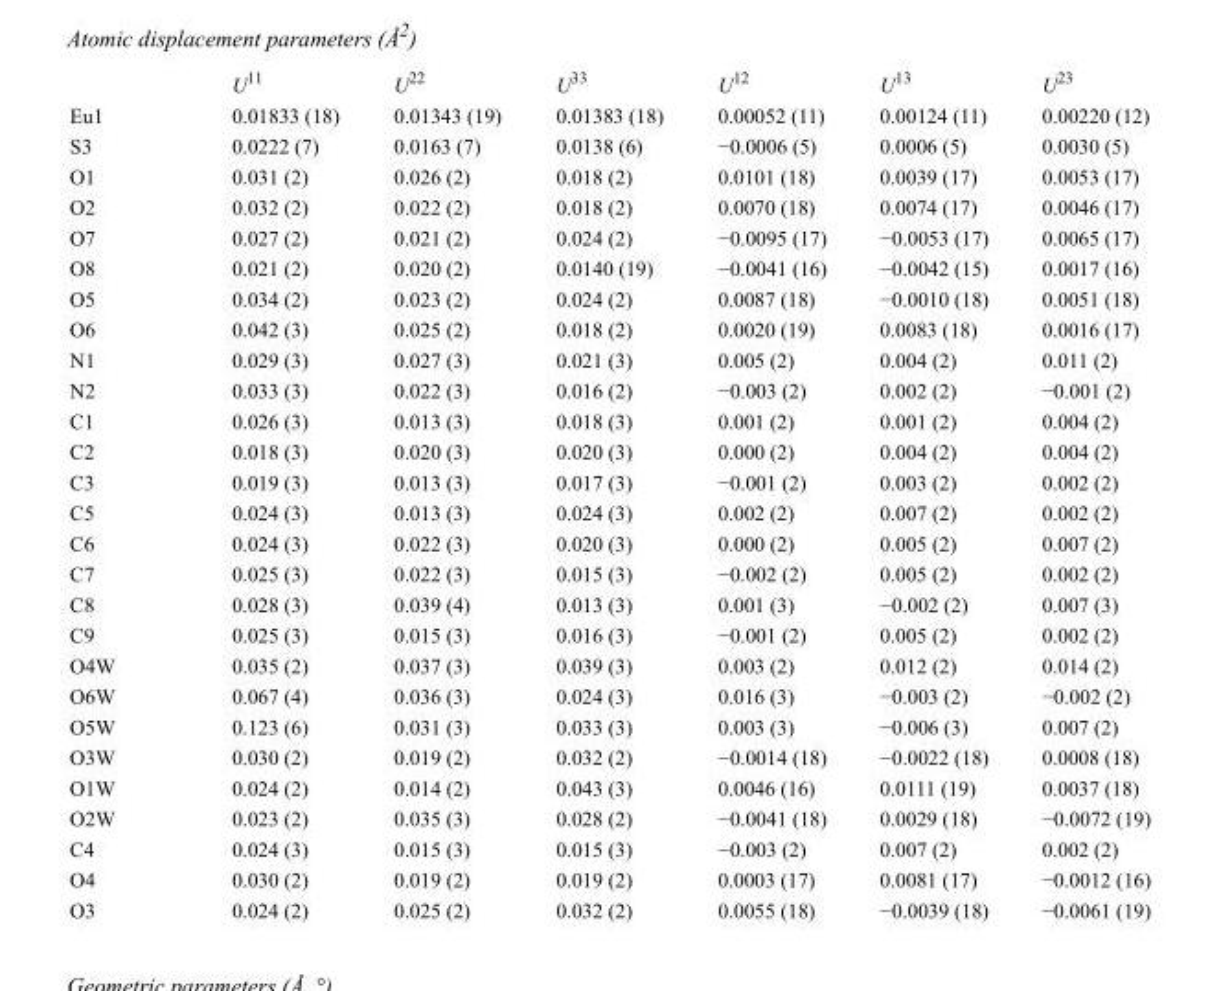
<table><thead><tr><td></td><td>U<sup>11</sup></td><td>U<sup>22</sup></td><td>U<sup>33</sup></td><td>U<sup>12</sup></td><td>U<sup>13</sup></td><td>U<sup>23</sup></td></tr></thead><tbody><tr><td>Eu1</td><td>0.01833 (18)</td><td>0.01343 (19)</td><td>0.01383 (18)</td><td>0.00052 (11)</td><td>0.00124 (11)</td><td>0.00220 (12)</td></tr><tr><td>S3</td><td>0.0222 (7)</td><td>0.0163 (7)</td><td>0.0138 (6)</td><td>−0.0006 (5)</td><td>0.0006 (5)</td><td>0.0030 (5)</td></tr><tr><td>O1</td><td>0.031 (2)</td><td>0.026 (2)</td><td>0.018 (2)</td><td>0.0101 (18)</td><td>0.0039 (17)</td><td>0.0053 (17)</td></tr><tr><td>O2</td><td>0.032 (2)</td><td>0.022 (2)</td><td>0.018 (2)</td><td>0.0070 (18)</td><td>0.0074 (17)</td><td>0.0046 (17)</td></tr><tr><td>O7</td><td>0.027 (2)</td><td>0.021 (2)</td><td>0.024 (2)</td><td>−0.0095 (17)</td><td>−0.0053 (17)</td><td>0.0065 (17)</td></tr><tr><td>O8</td><td>0.021 (2)</td><td>0.020 (2)</td><td>0.0140 (19)</td><td>−0.0041 (16)</td><td>−0.0042 (15)</td><td>0.0017 (16)</td></tr><tr><td>O5</td><td>0.034 (2)</td><td>0.023 (2)</td><td>0.024 (2)</td><td>0.0087 (18)</td><td>−0.0010 (18)</td><td>0.0051 (18)</td></tr><tr><td>O6</td><td>0.042 (3)</td><td>0.025 (2)</td><td>0.018 (2)</td><td>0.0020 (19)</td><td>0.0083 (18)</td><td>0.0016 (17)</td></tr><tr><td>N1</td><td>0.029 (3)</td><td>0.027 (3)</td><td>0.021 (3)</td><td>0.005 (2)</td><td>0.004 (2)</td><td>0.011 (2)</td></tr><tr><td>N2</td><td>0.033 (3)</td><td>0.022 (3)</td><td>0.016 (2)</td><td>−0.003 (2)</td><td>0.002 (2)</td><td>−0.001 (2)</td></tr><tr><td>C1</td><td>0.026 (3)</td><td>0.013 (3)</td><td>0.018 (3)</td><td>0.001 (2)</td><td>0.001 (2)</td><td>0.004 (2)</td></tr><tr><td>C2</td><td>0.018 (3)</td><td>0.020 (3)</td><td>0.020 (3)</td><td>0.000 (2)</td><td>0.004 (2)</td><td>0.004 (2)</td></tr><tr><td>C3</td><td>0.019 (3)</td><td>0.013 (3)</td><td>0.017 (3)</td><td>−0.001 (2)</td><td>0.003 (2)</td><td>0.002 (2)</td></tr><tr><td>C5</td><td>0.024 (3)</td><td>0.013 (3)</td><td>0.024 (3)</td><td>0.002 (2)</td><td>0.007 (2)</td><td>0.002 (2)</td></tr><tr><td>C6</td><td>0.024 (3)</td><td>0.022 (3)</td><td>0.020 (3)</td><td>0.000 (2)</td><td>0.005 (2)</td><td>0.007 (2)</td></tr><tr><td>C7</td><td>0.025 (3)</td><td>0.022 (3)</td><td>0.015 (3)</td><td>−0.002 (2)</td><td>0.005 (2)</td><td>0.002 (2)</td></tr><tr><td>C8</td><td>0.028 (3)</td><td>0.039 (4)</td><td>0.013 (3)</td><td>0.001 (3)</td><td>−0.002 (2)</td><td>0.007 (3)</td></tr><tr><td>C9</td><td>0.025 (3)</td><td>0.015 (3)</td><td>0.016 (3)</td><td>−0.001 (2)</td><td>0.005 (2)</td><td>0.002 (2)</td></tr><tr><td>O4W</td><td>0.035 (2)</td><td>0.037 (3)</td><td>0.039 (3)</td><td>0.003 (2)</td><td>0.012 (2)</td><td>0.014 (2)</td></tr><tr><td>O6W</td><td>0.067 (4)</td><td>0.036 (3)</td><td>0.024 (3)</td><td>0.016 (3)</td><td>−0.003 (2)</td><td>−0.002 (2)</td></tr><tr><td>O5W</td><td>0.123 (6)</td><td>0.031 (3)</td><td>0.033 (3)</td><td>0.003 (3)</td><td>−0.006 (3)</td><td>0.007 (2)</td></tr><tr><td>O3W</td><td>0.030 (2)</td><td>0.019 (2)</td><td>0.032 (2)</td><td>−0.0014 (18)</td><td>−0.0022 (18)</td><td>0.0008 (18)</td></tr><tr><td>O1W</td><td>0.024 (2)</td><td>0.014 (2)</td><td>0.043 (3)</td><td>0.0046 (16)</td><td>0.0111 (19)</td><td>0.0037 (18)</td></tr><tr><td>O2W</td><td>0.023 (2)</td><td>0.035 (3)</td><td>0.028 (2)</td><td>−0.0041 (18)</td><td>0.0029 (18)</td><td>−0.0072 (19)</td></tr><tr><td>C4</td><td>0.024 (3)</td><td>0.015 (3)</td><td>0.015 (3)</td><td>−0.003 (2)</td><td>0.007 (2)</td><td>0.002 (2)</td></tr><tr><td>O4</td><td>0.030 (2)</td><td>0.019 (2)</td><td>0.019 (2)</td><td>0.0003 (17)</td><td>0.0081 (17)</td><td>−0.0012 (16)</td></tr><tr><td>O3</td><td>0.024 (2)</td><td>0.025 (2)</td><td>0.032 (2)</td><td>0.0055 (18)</td><td>−0.0039 (18)</td><td>−0.0061 (19)</td></tr></tbody></table>